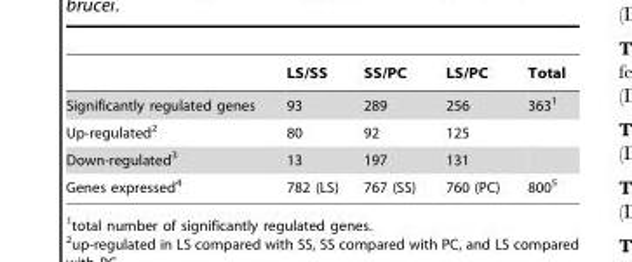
<table><thead><tr><td></td><td>LS/SS</td><td>SS/PC</td><td>LS/PC</td><td>Total</td></tr></thead><tbody><tr><td>Significantly regulated genes</td><td>93</td><td>289</td><td>256</td><td>363<sup>1</sup></td></tr><tr><td>Up-regulated<sup>2</sup></td><td>80</td><td>92</td><td>125</td><td></td></tr><tr><td>Down-regulated<sup>3</sup></td><td>13</td><td>197</td><td>131</td><td></td></tr><tr><td>Genes expressed<sup>4</sup></td><td>782 (LS)</td><td>767 (SS)</td><td>760 (PC)</td><td>800<sup>5</sup></td></tr></tbody></table>